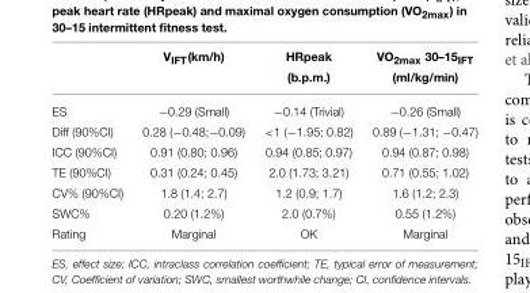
<table><thead><tr><td></td><td>V<sub>IFT</sub>(km/h)</td><td>HRpeak (b.p.m.)</td><td>VO<sub>2max</sub> 30–15<sub>IFT</sub> (ml/kg/min)</td></tr></thead><tbody><tr><td>ES</td><td>−0.29 (Small)</td><td>−0.14 (Trivial)</td><td>−0.26 (Small)</td></tr><tr><td>Diff (90%CI)</td><td>0.28 (−0.48;−0.09)</td><td>&lt;1 (−1.95; 0.82)</td><td>0.89 (−1.31; −0.47)</td></tr><tr><td>ICC (90%CI)</td><td>0.91 (0.80; 0.96)</td><td>0.94 (0.85; 0.97)</td><td>0.94 (0.87; 0.98)</td></tr><tr><td>TE (90%CI)</td><td>0.31 (0.24; 0.45)</td><td>2.0 (1.73; 3.21)</td><td>0.71 (0.55; 1.02)</td></tr><tr><td>CV% (90%CI)</td><td>1.8 (1.4; 2.7)</td><td>1.2 (0.9; 1.7)</td><td>1.6 (1.2; 2.3)</td></tr><tr><td>SWC%</td><td>0.20 (1.2%)</td><td>2.0 (0.7%)</td><td>0.55 (1.2%)</td></tr><tr><td>Rating</td><td>Marginal</td><td>OK</td><td>Marginal</td></tr></tbody></table>